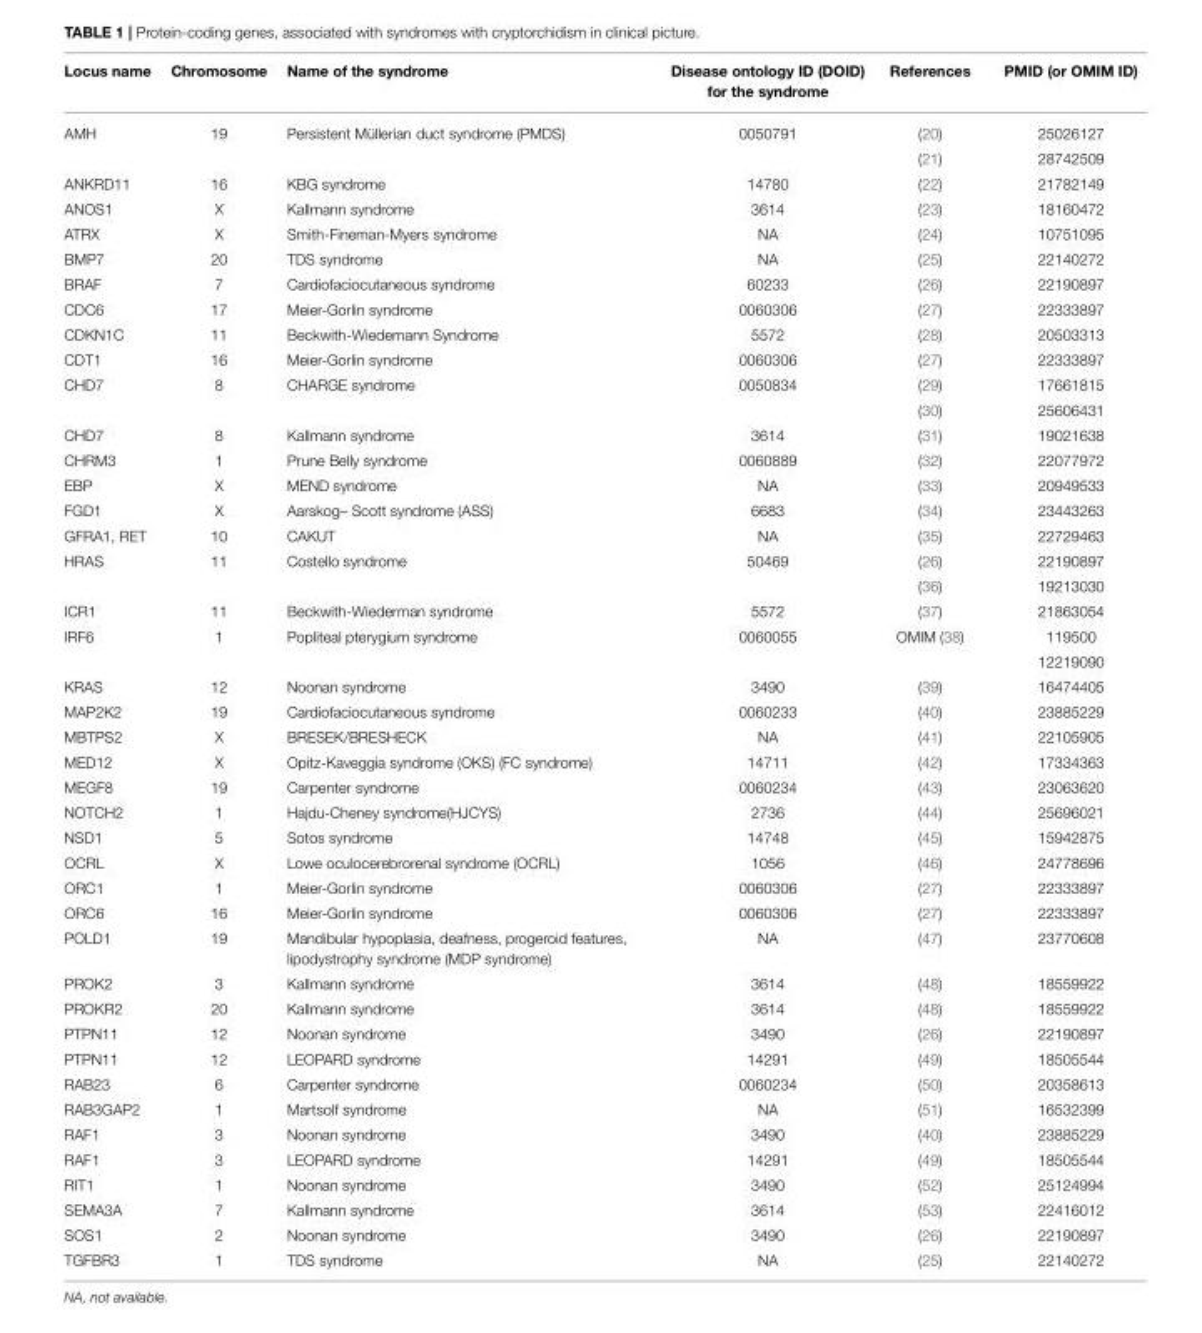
<table><thead><tr><td>Locus name</td><td>Chromosome</td><td>Name of the syndrome</td><td>Disease ontology ID (DOID) for the syndrome</td><td>References</td><td>PMID (or OMIM ID)</td></tr></thead><tbody><tr><td rowspan="2">AMH</td><td>19</td><td>Persistent Müllerian duct syndrome (PMDS)</td><td>0050791</td><td>(20)</td><td>25026127</td></tr><tr><td></td><td></td><td></td><td>(21)</td><td>28742509</td></tr><tr><td>ANKRD11</td><td>16</td><td>KBG syndrome</td><td>14780</td><td>(22)</td><td>21782149</td></tr><tr><td>ANOS1</td><td>X</td><td>Kallmann syndrome</td><td>3614</td><td>(23)</td><td>18160472</td></tr><tr><td>ATRX</td><td>X</td><td>Smith-Fineman-Myers syndrome</td><td>NA</td><td>(24)</td><td>10751095</td></tr><tr><td>BMP7</td><td>20</td><td>TDS syndrome</td><td>NA</td><td>(25)</td><td>22140272</td></tr><tr><td>BRAF</td><td>7</td><td>Cardiofaciocutaneous syndrome</td><td>60233</td><td>(26)</td><td>22190897</td></tr><tr><td>CDC6</td><td>17</td><td>Meier-Gorlin syndrome</td><td>0060306</td><td>(27)</td><td>22333897</td></tr><tr><td>CDKN1C</td><td>11</td><td>Beckwith-Wiedemann Syndrome</td><td>5572</td><td>(28)</td><td>20503313</td></tr><tr><td>CDT1</td><td>16</td><td>Meier-Gorlin syndrome</td><td>0060306</td><td>(27)</td><td>22333897</td></tr><tr><td rowspan="2">CHD7</td><td>8</td><td>CHARGE syndrome</td><td>0050834</td><td>(29)</td><td>17661815</td></tr><tr><td></td><td></td><td></td><td>(30)</td><td>25606431</td></tr><tr><td>CHD7</td><td>8</td><td>Kallmann syndrome</td><td>3614</td><td>(31)</td><td>19021638</td></tr><tr><td>CHRM3</td><td>1</td><td>Prune Belly syndrome</td><td>0060889</td><td>(32)</td><td>22077972</td></tr><tr><td>EBP</td><td>X</td><td>MEND syndrome</td><td>NA</td><td>(33)</td><td>20949533</td></tr><tr><td>FGD1</td><td>X</td><td>Aarskog– Scott syndrome (ASS)</td><td>6683</td><td>(34)</td><td>23443263</td></tr><tr><td>GFRA1, RET</td><td>10</td><td>CAKUT</td><td>NA</td><td>(35)</td><td>22729463</td></tr><tr><td rowspan="2">HRAS</td><td>11</td><td>Costello syndrome</td><td>50469</td><td>(26)</td><td>22190897</td></tr><tr><td></td><td></td><td></td><td>(36)</td><td>19213030</td></tr><tr><td>ICR1</td><td>11</td><td>Beckwith-Wiederman syndrome</td><td>5572</td><td>(37)</td><td>21863054</td></tr><tr><td rowspan="2">IRF6</td><td>1</td><td>Popliteal pterygium syndrome</td><td>0060055</td><td>OMIM (38)</td><td>119500</td></tr><tr><td></td><td></td><td></td><td></td><td>12219090</td></tr><tr><td>KRAS</td><td>12</td><td>Noonan syndrome</td><td>3490</td><td>(39)</td><td>16474405</td></tr><tr><td>MAP2K2</td><td>19</td><td>Cardiofaciocutaneous syndrome</td><td>0060233</td><td>(40)</td><td>23885229</td></tr><tr><td>MBTPS2</td><td>X</td><td>BRESEK/BRESHECK</td><td>NA</td><td>(41)</td><td>22105905</td></tr><tr><td>MED12</td><td>X</td><td>Opitz-Kaveggia syndrome (OKS) (FC syndrome)</td><td>14711</td><td>(42)</td><td>17334363</td></tr><tr><td>MEGF8</td><td>19</td><td>Carpenter syndrome</td><td>0060234</td><td>(43)</td><td>23063620</td></tr><tr><td>NOTCH2</td><td>1</td><td>Hajdu-Cheney syndrome(HJCYS)</td><td>2736</td><td>(44)</td><td>25696021</td></tr><tr><td>NSD1</td><td>5</td><td>Sotos syndrome</td><td>14748</td><td>(45)</td><td>15942875</td></tr><tr><td>OCRL</td><td>X</td><td>Lowe oculocerebrorenal syndrome (OCRL)</td><td>1056</td><td>(46)</td><td>24778696</td></tr><tr><td>ORC1</td><td>1</td><td>Meier-Gorlin syndrome</td><td>0060306</td><td>(27)</td><td>22333897</td></tr><tr><td>ORC6</td><td>16</td><td>Meier-Gorlin syndrome</td><td>0060306</td><td>(27)</td><td>22333897</td></tr><tr><td>POLD1</td><td>19</td><td>Mandibular hypoplasia, deafness, progeroid features, lipodystrophy syndrome (MDP syndrome)</td><td>NA</td><td>(47)</td><td>23770608</td></tr><tr><td>PROK2</td><td>3</td><td>Kallmann syndrome</td><td>3614</td><td>(48)</td><td>18559922</td></tr><tr><td>PROKR2</td><td>20</td><td>Kallmann syndrome</td><td>3614</td><td>(48)</td><td>18559922</td></tr><tr><td>PTPN11</td><td>12</td><td>Noonan syndrome</td><td>3490</td><td>(26)</td><td>22190897</td></tr><tr><td>PTPN11</td><td>12</td><td>LEOPARD syndrome</td><td>14291</td><td>(49)</td><td>18505544</td></tr><tr><td>RAB23</td><td>6</td><td>Carpenter syndrome</td><td>0060234</td><td>(50)</td><td>20358613</td></tr><tr><td>RAB3GAP2</td><td>1</td><td>Martsolf syndrome</td><td>NA</td><td>(51)</td><td>16532399</td></tr><tr><td>RAF1</td><td>3</td><td>Noonan syndrome</td><td>3490</td><td>(40)</td><td>23885229</td></tr><tr><td>RAF1</td><td>3</td><td>LEOPARD syndrome</td><td>14291</td><td>(49)</td><td>18505544</td></tr><tr><td>RIT1</td><td>1</td><td>Noonan syndrome</td><td>3490</td><td>(52)</td><td>25124994</td></tr><tr><td>SEMA3A</td><td>7</td><td>Kallmann syndrome</td><td>3614</td><td>(53)</td><td>22416012</td></tr><tr><td>SOS1</td><td>2</td><td>Noonan syndrome</td><td>3490</td><td>(26)</td><td>22190897</td></tr><tr><td>TGFBR3</td><td>1</td><td>TDS syndrome</td><td>NA</td><td>(25)</td><td>22140272</td></tr></tbody></table>